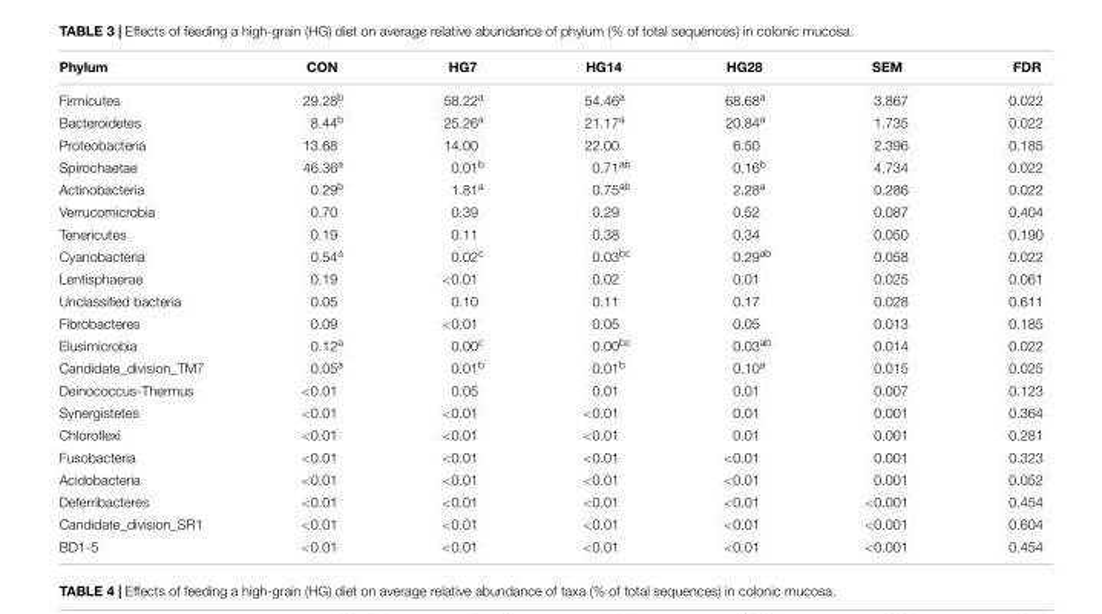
<table><thead><tr><td>Phylum</td><td>CON</td><td>HG7</td><td>HG14</td><td>HG28</td><td>SEM</td><td>FDR</td></tr></thead><tbody><tr><td>Firmicutes</td><td>29.28<sup>b</sup></td><td>58.22<sup>a</sup></td><td>54.46<sup>a</sup></td><td>68.68<sup>a</sup></td><td>3.867</td><td>0.022</td></tr><tr><td>Bacteroidetes</td><td>8.44<sup>b</sup></td><td>25.26<sup>a</sup></td><td>21.17<sup>a</sup></td><td>20.84<sup>a</sup></td><td>1.735</td><td>0.022</td></tr><tr><td>Proteobacteria</td><td>13.68</td><td>14.00</td><td>22.00</td><td>6.50</td><td>2.396</td><td>0.185</td></tr><tr><td>Spirochaetae</td><td>46.36<sup>a</sup></td><td>0.01<sup>b</sup></td><td>0.71<sup>ab</sup></td><td>0.16<sup>b</sup></td><td>4.734</td><td>0.022</td></tr><tr><td>Actinobacteria</td><td>0.29<sup>b</sup></td><td>1.81<sup>a</sup></td><td>0.75<sup>ab</sup></td><td>2.28<sup>a</sup></td><td>0.286</td><td>0.022</td></tr><tr><td>Verrucomicrobia</td><td>0.70</td><td>0.39</td><td>0.29</td><td>0.52</td><td>0.087</td><td>0.404</td></tr><tr><td>Tenericutes</td><td>0.19</td><td>0.11</td><td>0.38</td><td>0.34</td><td>0.050</td><td>0.190</td></tr><tr><td>Cyanobacteria</td><td>0.54<sup>a</sup></td><td>0.02<sup>c</sup></td><td>0.03<sup>bc</sup></td><td>0.29<sup>ab</sup></td><td>0.058</td><td>0.022</td></tr><tr><td>Lentisphaerae</td><td>0.19</td><td>&lt;0.01</td><td>0.02</td><td>0.01</td><td>0.025</td><td>0.061</td></tr><tr><td>Unclassified bacteria</td><td>0.05</td><td>0.10</td><td>0.11</td><td>0.17</td><td>0.028</td><td>0.611</td></tr><tr><td>Fibrobacteres</td><td>0.09</td><td>&lt;0.01</td><td>0.05</td><td>0.05</td><td>0.013</td><td>0.185</td></tr><tr><td>Elusimicrobia</td><td>0.12<sup>a</sup></td><td>0.00<sup>c</sup></td><td>0.00<sup>bc</sup></td><td>0.03<sup>ab</sup></td><td>0.014</td><td>0.022</td></tr><tr><td>Candidate_division_TM7</td><td>0.05<sup>a</sup></td><td>0.01<sup>b</sup></td><td>0.01<sup>b</sup></td><td>0.10<sup>a</sup></td><td>0.015</td><td>0.025</td></tr><tr><td>Deinococcus-Thermus</td><td>&lt;0.01</td><td>0.05</td><td>0.01</td><td>0.01</td><td>0.007</td><td>0.123</td></tr><tr><td>Synergistetes</td><td>&lt;0.01</td><td>&lt;0.01</td><td>&lt;0.01</td><td>0.01</td><td>0.001</td><td>0.364</td></tr><tr><td>Chloroflexi</td><td>&lt;0.01</td><td>&lt;0.01</td><td>&lt;0.01</td><td>0.01</td><td>0.001</td><td>0.281</td></tr><tr><td>Fusobacteria</td><td>&lt;0.01</td><td>&lt;0.01</td><td>&lt;0.01</td><td>&lt;0.01</td><td>0.001</td><td>0.323</td></tr><tr><td>Acidobacteria</td><td>&lt;0.01</td><td>&lt;0.01</td><td>&lt;0.01</td><td>&lt;0.01</td><td>0.001</td><td>0.052</td></tr><tr><td>Deferribacteres</td><td>&lt;0.01</td><td>&lt;0.01</td><td>&lt;0.01</td><td>&lt;0.01</td><td>&lt;0.001</td><td>0.454</td></tr><tr><td>Candidate_division_SR1</td><td>&lt;0.01</td><td>&lt;0.01</td><td>&lt;0.01</td><td>&lt;0.01</td><td>&lt;0.001</td><td>0.604</td></tr><tr><td>BD1-5</td><td>&lt;0.01</td><td>&lt;0.01</td><td>&lt;0.01</td><td>&lt;0.01</td><td>&lt;0.001</td><td>0.454</td></tr></tbody></table>